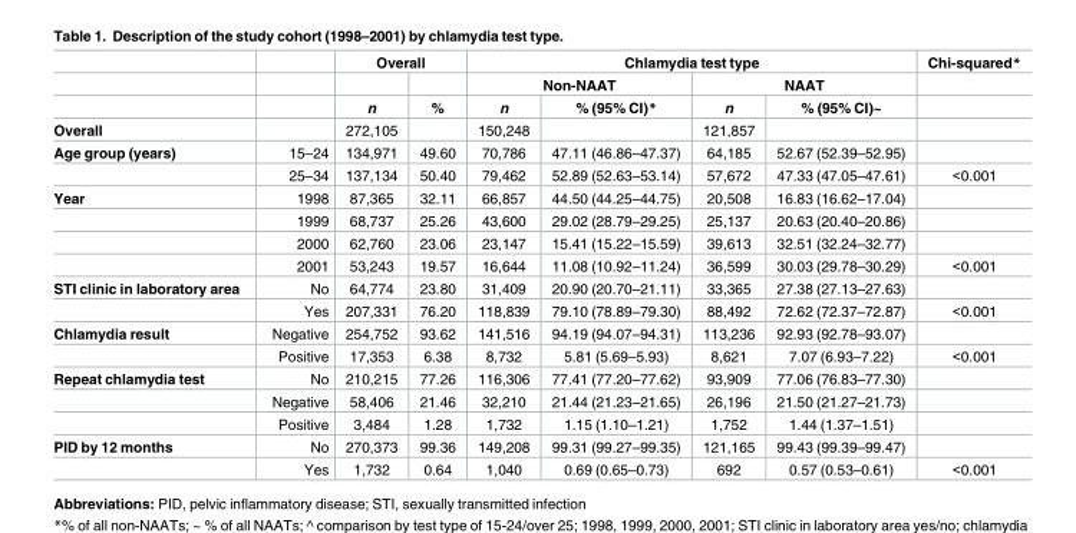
<table><thead><tr><td rowspan="3"></td><td rowspan="3"></td><td colspan="2">Overall</td><td colspan="4">Chlamydia test type</td><td rowspan="3">Chi-squared*</td></tr><tr><td rowspan="2">n</td><td rowspan="2">%</td><td colspan="2">Non-NAAT</td><td colspan="2">NAAT</td></tr><tr><td>n</td><td>% (95% CI)*</td><td>n</td><td>% (95% CI)~</td></tr></thead><tbody><tr><td>Overall</td><td></td><td>272,105</td><td></td><td>150,248</td><td></td><td>121,857</td><td></td><td></td></tr><tr><td rowspan="2">Age group (years)</td><td>15–24</td><td>134,971</td><td>49.60</td><td>70,786</td><td>47.11 (46.86–47.37)</td><td>64,185</td><td>52.67 (52.39–52.95)</td><td></td></tr><tr><td>25–34</td><td>137,134</td><td>50.40</td><td>79,462</td><td>52.89 (52.63–53.14)</td><td>57,672</td><td>47.33 (47.05–47.61)</td><td>&lt;0.001</td></tr><tr><td rowspan="4">Year</td><td>1998</td><td>87,365</td><td>32.11</td><td>66,857</td><td>44.50 (44.25–44.75)</td><td>20,508</td><td>16.83 (16.62–17.04)</td><td></td></tr><tr><td>1999</td><td>68,737</td><td>25.26</td><td>43,600</td><td>29.02 (28.79–29.25)</td><td>25,137</td><td>20.63 (20.40–20.86)</td><td></td></tr><tr><td>2000</td><td>62,760</td><td>23.06</td><td>23,147</td><td>15.41 (15.22–15.59)</td><td>39,613</td><td>32.51 (32.24–32.77)</td><td></td></tr><tr><td>2001</td><td>53,243</td><td>19.57</td><td>16,644</td><td>11.08 (10.92–11.24)</td><td>36,599</td><td>30.03 (29.78–30.29)</td><td>&lt;0.001</td></tr><tr><td rowspan="2">STI clinic in laboratory area</td><td>No</td><td>64,774</td><td>23.80</td><td>31,409</td><td>20.90 (20.70–21.11)</td><td>33,365</td><td>27.38 (27.13–27.63)</td><td></td></tr><tr><td>Yes</td><td>207,331</td><td>76.20</td><td>118,839</td><td>79.10 (78.89–79.30)</td><td>88,492</td><td>72.62 (72.37–72.87)</td><td>&lt;0.001</td></tr><tr><td rowspan="2">Chlamydia result</td><td>Negative</td><td>254,752</td><td>93.62</td><td>141,516</td><td>94.19 (94.07–94.31)</td><td>113,236</td><td>92.93 (92.78–93.07)</td><td></td></tr><tr><td>Positive</td><td>17,353</td><td>6.38</td><td>8,732</td><td>5.81 (5.69–5.93)</td><td>8,621</td><td>7.07 (6.93–7.22)</td><td>&lt;0.001</td></tr><tr><td rowspan="3">Repeat chlamydia test</td><td>No</td><td>210,215</td><td>77.26</td><td>116,306</td><td>77.41 (77.20–77.62)</td><td>93,909</td><td>77.06 (76.83–77.30)</td><td></td></tr><tr><td>Negative</td><td>58,406</td><td>21.46</td><td>32,210</td><td>21.44 (21.23–21.65)</td><td>26,196</td><td>21.50 (21.27–21.73)</td><td></td></tr><tr><td>Positive</td><td>3,484</td><td>1.28</td><td>1,732</td><td>1.15 (1.10–1.21)</td><td>1,752</td><td>1.44 (1.37–1.51)</td><td></td></tr><tr><td rowspan="2">PID by 12 months</td><td>No</td><td>270,373</td><td>99.36</td><td>149,208</td><td>99.31 (99.27–99.35)</td><td>121,165</td><td>99.43 (99.39–99.47)</td><td></td></tr><tr><td>Yes</td><td>1,732</td><td>0.64</td><td>1,040</td><td>0.69 (0.65–0.73)</td><td>692</td><td>0.57 (0.53–0.61)</td><td>&lt;0.001</td></tr></tbody></table>